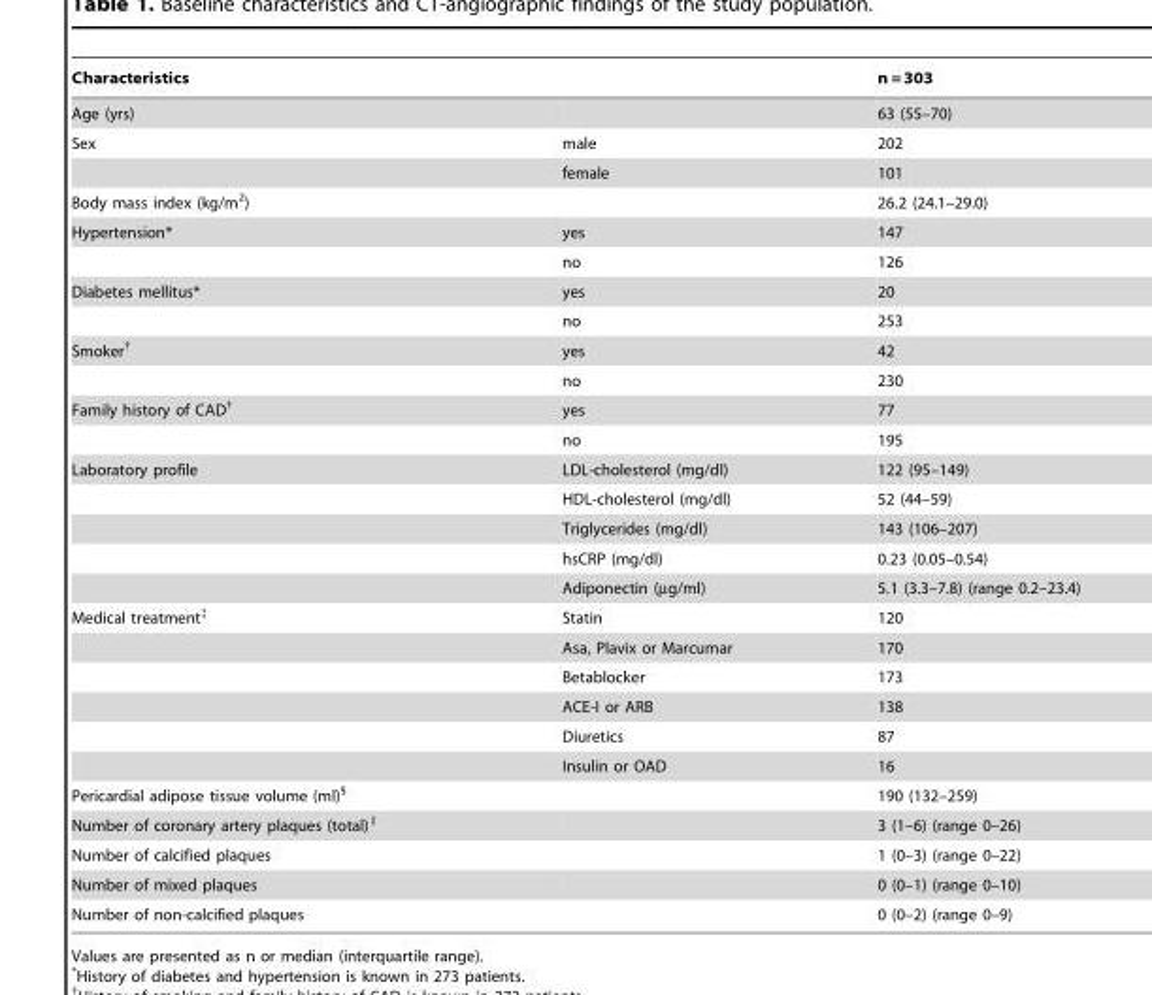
<table><thead><tr><td>Characteristics</td><td></td><td>n = 303</td></tr></thead><tbody><tr><td>Age (yrs)</td><td></td><td>63 (55–70)</td></tr><tr><td rowspan="2">Sex</td><td>male</td><td>202</td></tr><tr><td>female</td><td>101</td></tr><tr><td>Body mass index (kg/m<sup>2</sup>)</td><td></td><td>26.2 (24.1–29.0)</td></tr><tr><td rowspan="2">Hypertension*</td><td>yes</td><td>147</td></tr><tr><td>no</td><td>126</td></tr><tr><td rowspan="2">Diabetes mellitus*</td><td>yes</td><td>20</td></tr><tr><td>no</td><td>253</td></tr><tr><td rowspan="2">Smoker†</td><td>yes</td><td>42</td></tr><tr><td>no</td><td>230</td></tr><tr><td rowspan="2">Family history of CAD†</td><td>yes</td><td>77</td></tr><tr><td>no</td><td>195</td></tr><tr><td rowspan="5">Laboratory profile</td><td>LDL-cholesterol (mg/dl)</td><td>122 (95–149)</td></tr><tr><td>HDL-cholesterol (mg/dl)</td><td>52 (44–59)</td></tr><tr><td>Triglycerides (mg/dl)</td><td>143 (106–207)</td></tr><tr><td>hsCRP (mg/dl)</td><td>0.23 (0.05–0.54)</td></tr><tr><td>Adiponectin (µg/ml)</td><td>5.1 (3.3–7.8) (range 0.2–23.4)</td></tr><tr><td rowspan="6">Medical treatment‡</td><td>Statin</td><td>120</td></tr><tr><td>Asa, Plavix or Marcumar</td><td>170</td></tr><tr><td>Betablocker</td><td>173</td></tr><tr><td>ACE-I or ARB</td><td>138</td></tr><tr><td>Diuretics</td><td>87</td></tr><tr><td>Insulin or OAD</td><td>16</td></tr><tr><td>Pericardial adipose tissue volume (ml)§</td><td></td><td>190 (132–259)</td></tr><tr><td>Number of coronary artery plaques (total)∥</td><td></td><td>3 (1–6) (range 0–26)</td></tr><tr><td>Number of calcified plaques</td><td></td><td>1 (0–3) (range 0–22)</td></tr><tr><td>Number of mixed plaques</td><td></td><td>0 (0–1) (range 0–10)</td></tr><tr><td>Number of non-calcified plaques</td><td></td><td>0 (0–2) (range 0–9)</td></tr></tbody></table>